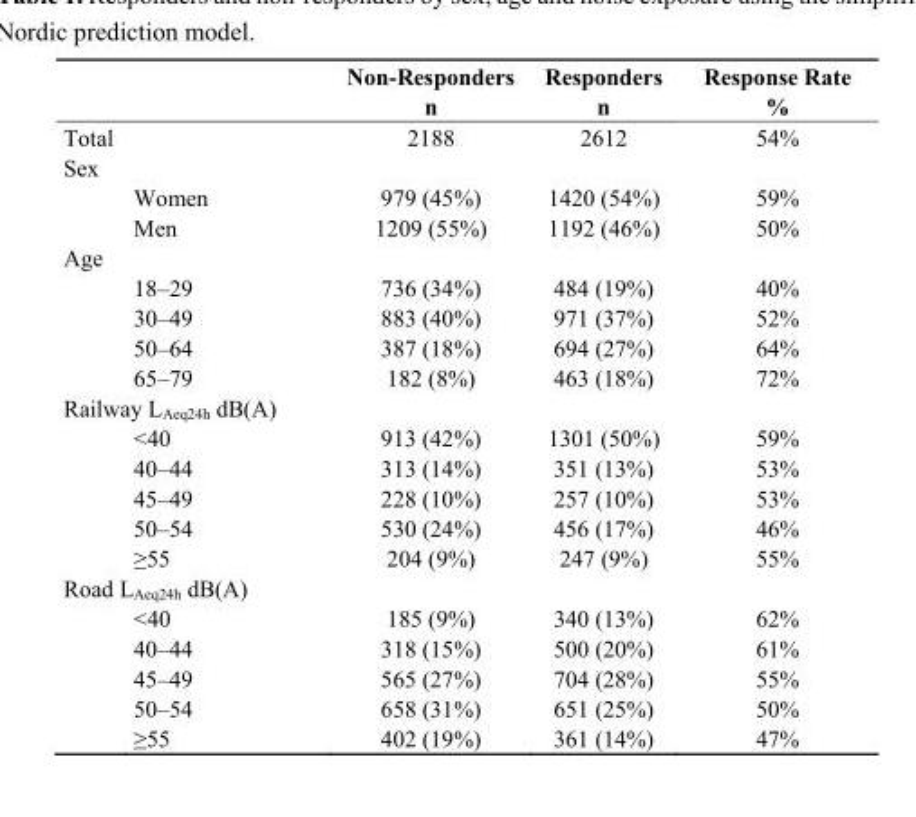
<table><thead><tr><td rowspan="2"></td><td rowspan="2"></td><td rowspan="2">Non-Responders n</td><td rowspan="2">Responders n</td><td rowspan="2">Response Rate %</td></tr><tr></tr></thead><tbody><tr><td>Total</td><td></td><td>2188</td><td>2612</td><td>54%</td></tr><tr><td colspan="5">Sex</td></tr><tr><td></td><td>Women</td><td>979 (45%)</td><td>1420 (54%)</td><td>59%</td></tr><tr><td></td><td>Men</td><td>1209 (55%)</td><td>1192 (46%)</td><td>50%</td></tr><tr><td colspan="5">Age</td></tr><tr><td></td><td>18–29</td><td>736 (34%)</td><td>484 (19%)</td><td>40%</td></tr><tr><td></td><td>30–49</td><td>883 (40%)</td><td>971 (37%)</td><td>52%</td></tr><tr><td></td><td>50–64</td><td>387 (18%)</td><td>694 (27%)</td><td>64%</td></tr><tr><td></td><td>65–79</td><td>182 (8%)</td><td>463 (18%)</td><td>72%</td></tr><tr><td colspan="5">Railway L<sub>Aeq24h</sub> dB(A)</td></tr><tr><td></td><td>&lt;40</td><td>913 (42%)</td><td>1301 (50%)</td><td>59%</td></tr><tr><td></td><td>40–44</td><td>313 (14%)</td><td>351 (13%)</td><td>53%</td></tr><tr><td></td><td>45–49</td><td>228 (10%)</td><td>257 (10%)</td><td>53%</td></tr><tr><td></td><td>50–54</td><td>530 (24%)</td><td>456 (17%)</td><td>46%</td></tr><tr><td></td><td>≥55</td><td>204 (9%)</td><td>247 (9%)</td><td>55%</td></tr><tr><td colspan="5">Road L<sub>Aeq24h</sub> dB(A)</td></tr><tr><td></td><td>&lt;40</td><td>185 (9%)</td><td>340 (13%)</td><td>62%</td></tr><tr><td></td><td>40–44</td><td>318 (15%)</td><td>500 (20%)</td><td>61%</td></tr><tr><td></td><td>45–49</td><td>565 (27%)</td><td>704 (28%)</td><td>55%</td></tr><tr><td></td><td>50–54</td><td>658 (31%)</td><td>651 (25%)</td><td>50%</td></tr><tr><td></td><td>≥55</td><td>402 (19%)</td><td>361 (14%)</td><td>47%</td></tr></tbody></table>